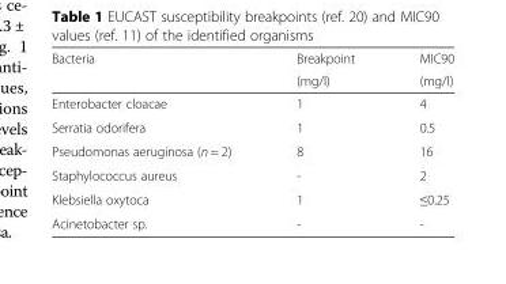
<table><thead><tr><td rowspan="2">Bacteria</td><td rowspan="2">Breakpoint (mg/l)</td><td rowspan="2">MIC90 (mg/l)</td></tr><tr></tr></thead><tbody><tr><td>Enterobacter cloacae</td><td>1</td><td>4</td></tr><tr><td>Serratia odorifera</td><td>1</td><td>0.5</td></tr><tr><td>Pseudomonas aeruginosa (n = 2)</td><td>8</td><td>16</td></tr><tr><td>Staphylococcus aureus</td><td>-</td><td>2</td></tr><tr><td>Klebsiella oxytoca</td><td>1</td><td>≤0.25</td></tr><tr><td>Acinetobacter sp.</td><td>-</td><td>-</td></tr></tbody></table>